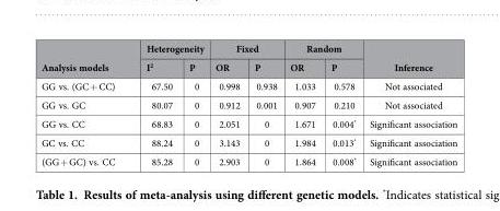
<table><thead><tr><td rowspan="2">Analysis models</td><td colspan="2">Heterogeneity</td><td colspan="2">Fixed</td><td colspan="2">Random</td><td rowspan="2">Inference</td></tr><tr><td>I<sup>2</sup></td><td>P</td><td>OR</td><td>P</td><td>OR</td><td>P</td></tr></thead><tbody><tr><td>GG vs. (GC + CC)</td><td>67.50</td><td>0</td><td>0.998</td><td>0.938</td><td>1.033</td><td>0.578</td><td>Not associated</td></tr><tr><td>GG vs. GC</td><td>80.07</td><td>0</td><td>0.912</td><td>0.001</td><td>0.907</td><td>0.210</td><td>Not associated</td></tr><tr><td>GG vs. CC</td><td>68.83</td><td>0</td><td>2.051</td><td>0</td><td>1.671</td><td>0.004*</td><td>Significant association</td></tr><tr><td>GC vs. CC</td><td>88.24</td><td>0</td><td>3.143</td><td>0</td><td>1.984</td><td>0.013*</td><td>Significant association</td></tr><tr><td>(GG + GC) vs. CC</td><td>85.28</td><td>0</td><td>2.903</td><td>0</td><td>1.864</td><td>0.008*</td><td>Significant association</td></tr></tbody></table>